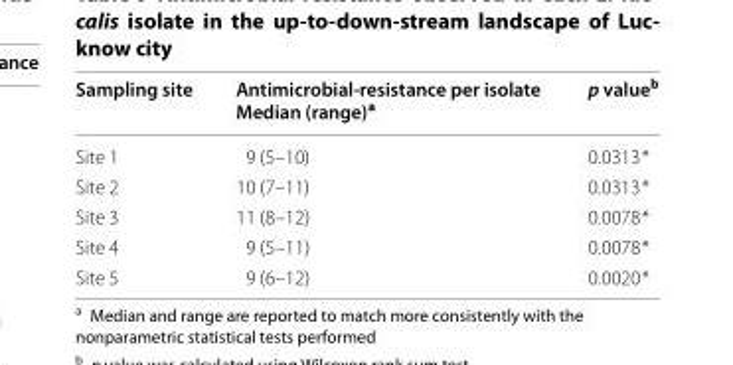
<table><thead><tr><td>Sampling site</td><td>Antimicrobial‑resistance per isolate Median (range)<sup>a</sup></td><td>p value<sup>b</sup></td></tr></thead><tbody><tr><td>Site 1</td><td>9 (5–10)</td><td>0.0313*</td></tr><tr><td>Site 2</td><td>10 (7–11)</td><td>0.0313*</td></tr><tr><td>Site 3</td><td>11 (8–12)</td><td>0.0078*</td></tr><tr><td>Site 4</td><td>9 (5–11)</td><td>0.0078*</td></tr><tr><td>Site 5</td><td>9 (6–12)</td><td>0.0020*</td></tr></tbody></table>